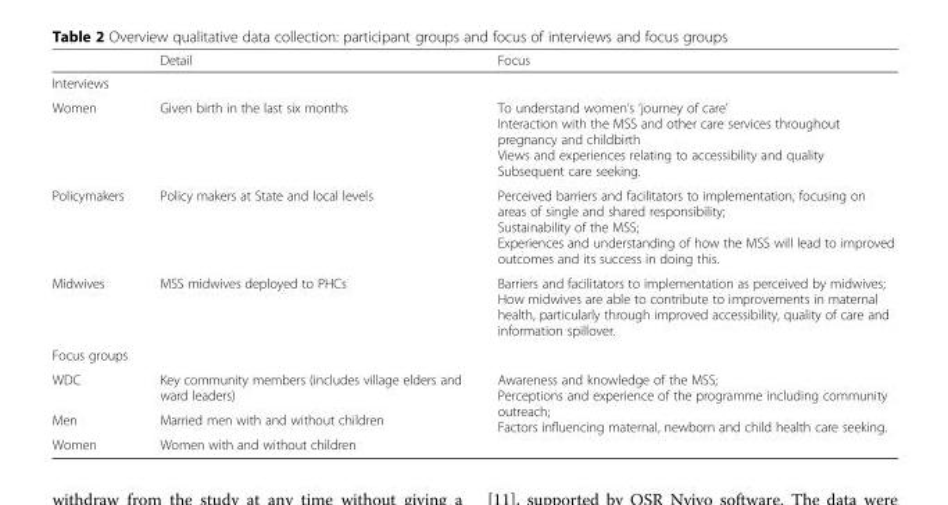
<table><thead><tr><td></td><td>Detail</td><td>Focus</td></tr></thead><tbody><tr><td colspan="3">Interviews</td></tr><tr><td>Women</td><td>Given birth in the last six months</td><td>To understand women’s ‘journey of care’ Interaction with the MSS and other care services throughout pregnancy and childbirth Views and experiences relating to accessibility and quality Subsequent care seeking.</td></tr><tr><td>Policymakers</td><td>Policy makers at State and local levels</td><td>Perceived barriers and facilitators to implementation, focusing on areas of single and shared responsibility; Sustainability of the MSS; Experiences and understanding of how the MSS will lead to improved outcomes and its success in doing this.</td></tr><tr><td>Midwives</td><td>MSS midwives deployed to PHCs</td><td>Barriers and facilitators to implementation as perceived by midwives; How midwives are able to contribute to improvements in maternal health, particularly through improved accessibility, quality of care and information spillover.</td></tr><tr><td colspan="3">Focus groups</td></tr><tr><td>WDC</td><td>Key community members (includes village elders and ward leaders)</td><td rowspan="3">Awareness and knowledge of the MSS; Perceptions and experience of the programme including community outreach; Factors influencing maternal, newborn and child health care seeking.</td></tr><tr><td>Men</td><td>Married men with and without children</td></tr><tr><td>Women</td><td>Women with and without children</td></tr></tbody></table>